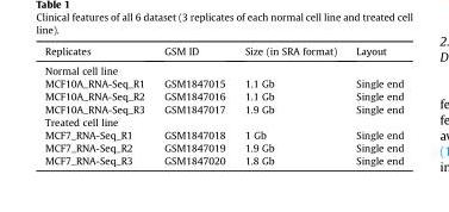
<table><thead><tr><td>Replicates</td><td>GSM ID</td><td>Size (in SRA format)</td><td>Layout</td></tr></thead><tbody><tr><td colspan="4">Normal cell line</td></tr><tr><td>MCF10A_RNA-Seq_R1</td><td>GSM1847015</td><td>1.1 Gb</td><td>Single end</td></tr><tr><td>MCF10A_RNA-Seq_R2</td><td>GSM1847016</td><td>1.1 Gb</td><td>Single end</td></tr><tr><td>MCF10A_RNA-Seq_R3</td><td>GSM1847017</td><td>1.9 Gb</td><td>Single end</td></tr><tr><td colspan="4">Treated cell line</td></tr><tr><td>MCF7_RNA-Seq_R1</td><td>GSM1847018</td><td>1 Gb</td><td>Single end</td></tr><tr><td>MCF7_RNA-Seq_R2</td><td>GSM1847019</td><td>1.9 Gb</td><td>Single end</td></tr><tr><td>MCF7_RNA-Seq_R3</td><td>GSM1847020</td><td>1.8 Gb</td><td>Single end</td></tr></tbody></table>